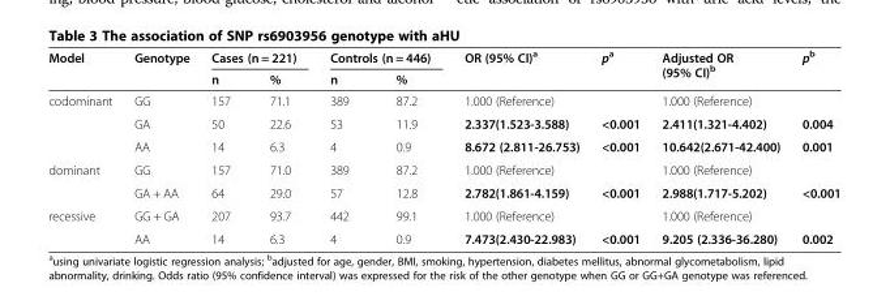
<table><thead><tr><td rowspan="2">Model</td><td rowspan="2">Genotype</td><td colspan="2">Cases (n = 221)</td><td colspan="2">Controls (n = 446)</td><td rowspan="2">OR (95% CI)<sup>a</sup></td><td rowspan="2">p<sup>a</sup></td><td rowspan="2">Adjusted OR (95% CI)<sup>b</sup></td><td rowspan="2">p<sup>b</sup></td></tr><tr><td>n</td><td>%</td><td>n</td><td>%</td></tr></thead><tbody><tr><td rowspan="3">codominant</td><td>GG</td><td>157</td><td>71.1</td><td>389</td><td>87.2</td><td>1.000 (Reference)</td><td></td><td>1.000 (Reference)</td><td></td></tr><tr><td>GA</td><td>50</td><td>22.6</td><td>53</td><td>11.9</td><td>2.337(1.523-3.588)</td><td>&lt;0.001</td><td>2.411(1.321-4.402)</td><td>0.004</td></tr><tr><td>AA</td><td>14</td><td>6.3</td><td>4</td><td>0.9</td><td>8.672 (2.811-26.753)</td><td>&lt;0.001</td><td>10.642(2.671-42.400)</td><td>0.001</td></tr><tr><td rowspan="2">dominant</td><td>GG</td><td>157</td><td>71.0</td><td>389</td><td>87.2</td><td>1.000 (Reference)</td><td></td><td>1.000 (Reference)</td><td></td></tr><tr><td>GA + AA</td><td>64</td><td>29.0</td><td>57</td><td>12.8</td><td>2.782(1.861-4.159)</td><td>&lt;0.001</td><td>2.988(1.717-5.202)</td><td>&lt;0.001</td></tr><tr><td rowspan="2">recessive</td><td>GG + GA</td><td>207</td><td>93.7</td><td>442</td><td>99.1</td><td>1.000 (Reference)</td><td></td><td>1.000 (Reference)</td><td></td></tr><tr><td>AA</td><td>14</td><td>6.3</td><td>4</td><td>0.9</td><td>7.473(2.430-22.983)</td><td>&lt;0.001</td><td>9.205 (2.336-36.280)</td><td>0.002</td></tr></tbody></table>